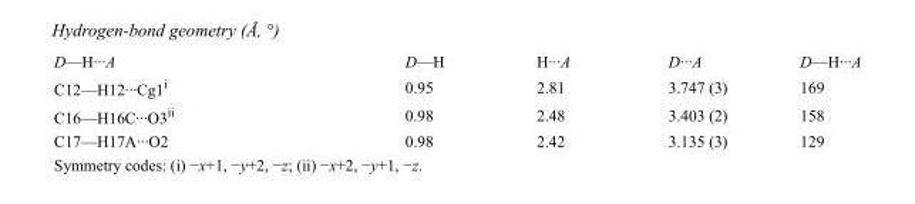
<table><tbody><tr><td>D—H···A</td><td>D—H</td><td>H···A</td><td>D···A</td><td>D—H···A</td></tr><tr><td>C12—H12···Cg1<sup>i</sup></td><td>0.95</td><td>2.81</td><td>3.747 (3)</td><td>169</td></tr><tr><td>C16—H16C···O3<sup>ii</sup></td><td>0.98</td><td>2.48</td><td>3.403 (2)</td><td>158</td></tr><tr><td>C17—H17A···O2</td><td>0.98</td><td>2.42</td><td>3.135 (3)</td><td>129</td></tr></tbody></table>